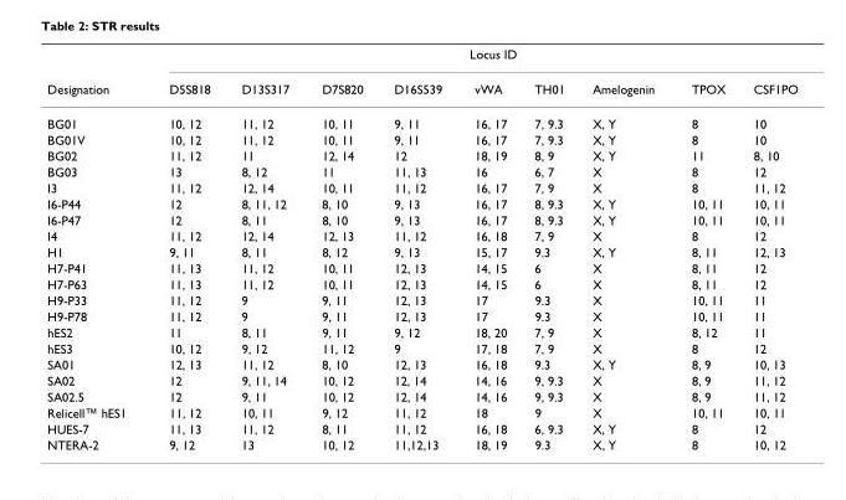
<table><thead><tr><td rowspan="2">Designation</td><td colspan="9">Locus ID</td></tr><tr><td>D5S818</td><td>D13S317</td><td>D7S820</td><td>D16S539</td><td>vWA</td><td>TH01</td><td>Amelogenin</td><td>TPOX</td><td>CSF1PO</td></tr></thead><tbody><tr><td>BG01</td><td>10, 12</td><td>11, 12</td><td>10, 11</td><td>9, 11</td><td>16, 17</td><td>7, 9.3</td><td>X, Y</td><td>8</td><td>10</td></tr><tr><td>BG01V</td><td>10, 12</td><td>11, 12</td><td>10, 11</td><td>9, 11</td><td>16, 17</td><td>7, 9.3</td><td>X, Y</td><td>8</td><td>10</td></tr><tr><td>BG02</td><td>11, 12</td><td>11</td><td>12, 14</td><td>12</td><td>18, 19</td><td>8, 9</td><td>X, Y</td><td>11</td><td>8, 10</td></tr><tr><td>BG03</td><td>13</td><td>8, 12</td><td>11</td><td>11, 13</td><td>16</td><td>6, 7</td><td>X</td><td>8</td><td>12</td></tr><tr><td>I3</td><td>11, 12</td><td>12, 14</td><td>10, 11</td><td>11, 12</td><td>16, 17</td><td>7, 9</td><td>X</td><td>8</td><td>11, 12</td></tr><tr><td>I6-P44</td><td>12</td><td>8, 11, 12</td><td>8, 10</td><td>9, 13</td><td>16, 17</td><td>8, 9.3</td><td>X, Y</td><td>10, 11</td><td>10, 11</td></tr><tr><td>I6-P47</td><td>12</td><td>8, 11</td><td>8, 10</td><td>9, 13</td><td>16, 17</td><td>8, 9.3</td><td>X, Y</td><td>10, 11</td><td>10, 11</td></tr><tr><td>I4</td><td>11, 12</td><td>12, 14</td><td>12, 13</td><td>11, 12</td><td>16, 18</td><td>7, 9</td><td>X</td><td>8</td><td>12</td></tr><tr><td>H1</td><td>9, 11</td><td>8, 11</td><td>8, 12</td><td>9, 13</td><td>15, 17</td><td>9.3</td><td>X, Y</td><td>8, 11</td><td>12, 13</td></tr><tr><td>H7-P41</td><td>11, 13</td><td>11, 12</td><td>10, 11</td><td>12, 13</td><td>14, 15</td><td>6</td><td>X</td><td>8, 11</td><td>12</td></tr><tr><td>H7-P63</td><td>11, 13</td><td>11, 12</td><td>10, 11</td><td>12, 13</td><td>14, 15</td><td>6</td><td>X</td><td>8, 11</td><td>12</td></tr><tr><td>H9-P33</td><td>11, 12</td><td>9</td><td>9, 11</td><td>12, 13</td><td>17</td><td>9.3</td><td>X</td><td>10, 11</td><td>11</td></tr><tr><td>H9-P78</td><td>11, 12</td><td>9</td><td>9, 11</td><td>12, 13</td><td>17</td><td>9.3</td><td>X</td><td>10, 11</td><td>11</td></tr><tr><td>hES2</td><td>11</td><td>8, 11</td><td>9, 11</td><td>9, 12</td><td>18, 20</td><td>7, 9</td><td>X</td><td>8, 12</td><td>11</td></tr><tr><td>hES3</td><td>10, 12</td><td>9, 12</td><td>11, 12</td><td>9</td><td>17, 18</td><td>7, 9</td><td>X</td><td>8</td><td>12</td></tr><tr><td>SA01</td><td>12, 13</td><td>11, 12</td><td>8, 10</td><td>12, 13</td><td>16, 18</td><td>9.3</td><td>X, Y</td><td>8, 9</td><td>10, 13</td></tr><tr><td>SA02</td><td>12</td><td>9, 11, 14</td><td>10, 12</td><td>12, 14</td><td>14, 16</td><td>9, 9.3</td><td>X</td><td>8, 9</td><td>11, 12</td></tr><tr><td>SA02.5</td><td>12</td><td>9, 11</td><td>10, 12</td><td>12, 14</td><td>14, 16</td><td>9, 9.3</td><td>X</td><td>8, 9</td><td>11, 12</td></tr><tr><td>Relicell™ hES1</td><td>11, 12</td><td>10, 11</td><td>9, 12</td><td>11, 12</td><td>18</td><td>9</td><td>X</td><td>10, 11</td><td>10, 11</td></tr><tr><td>HUES-7</td><td>11, 13</td><td>11, 12</td><td>8, 11</td><td>11, 12</td><td>16, 18</td><td>6, 9.3</td><td>X, Y</td><td>8</td><td>12</td></tr><tr><td>NTERA-2</td><td>9, 12</td><td>13</td><td>10, 12</td><td>11,12,13</td><td>18, 19</td><td>9.3</td><td>X, Y</td><td>8</td><td>10, 12</td></tr></tbody></table>